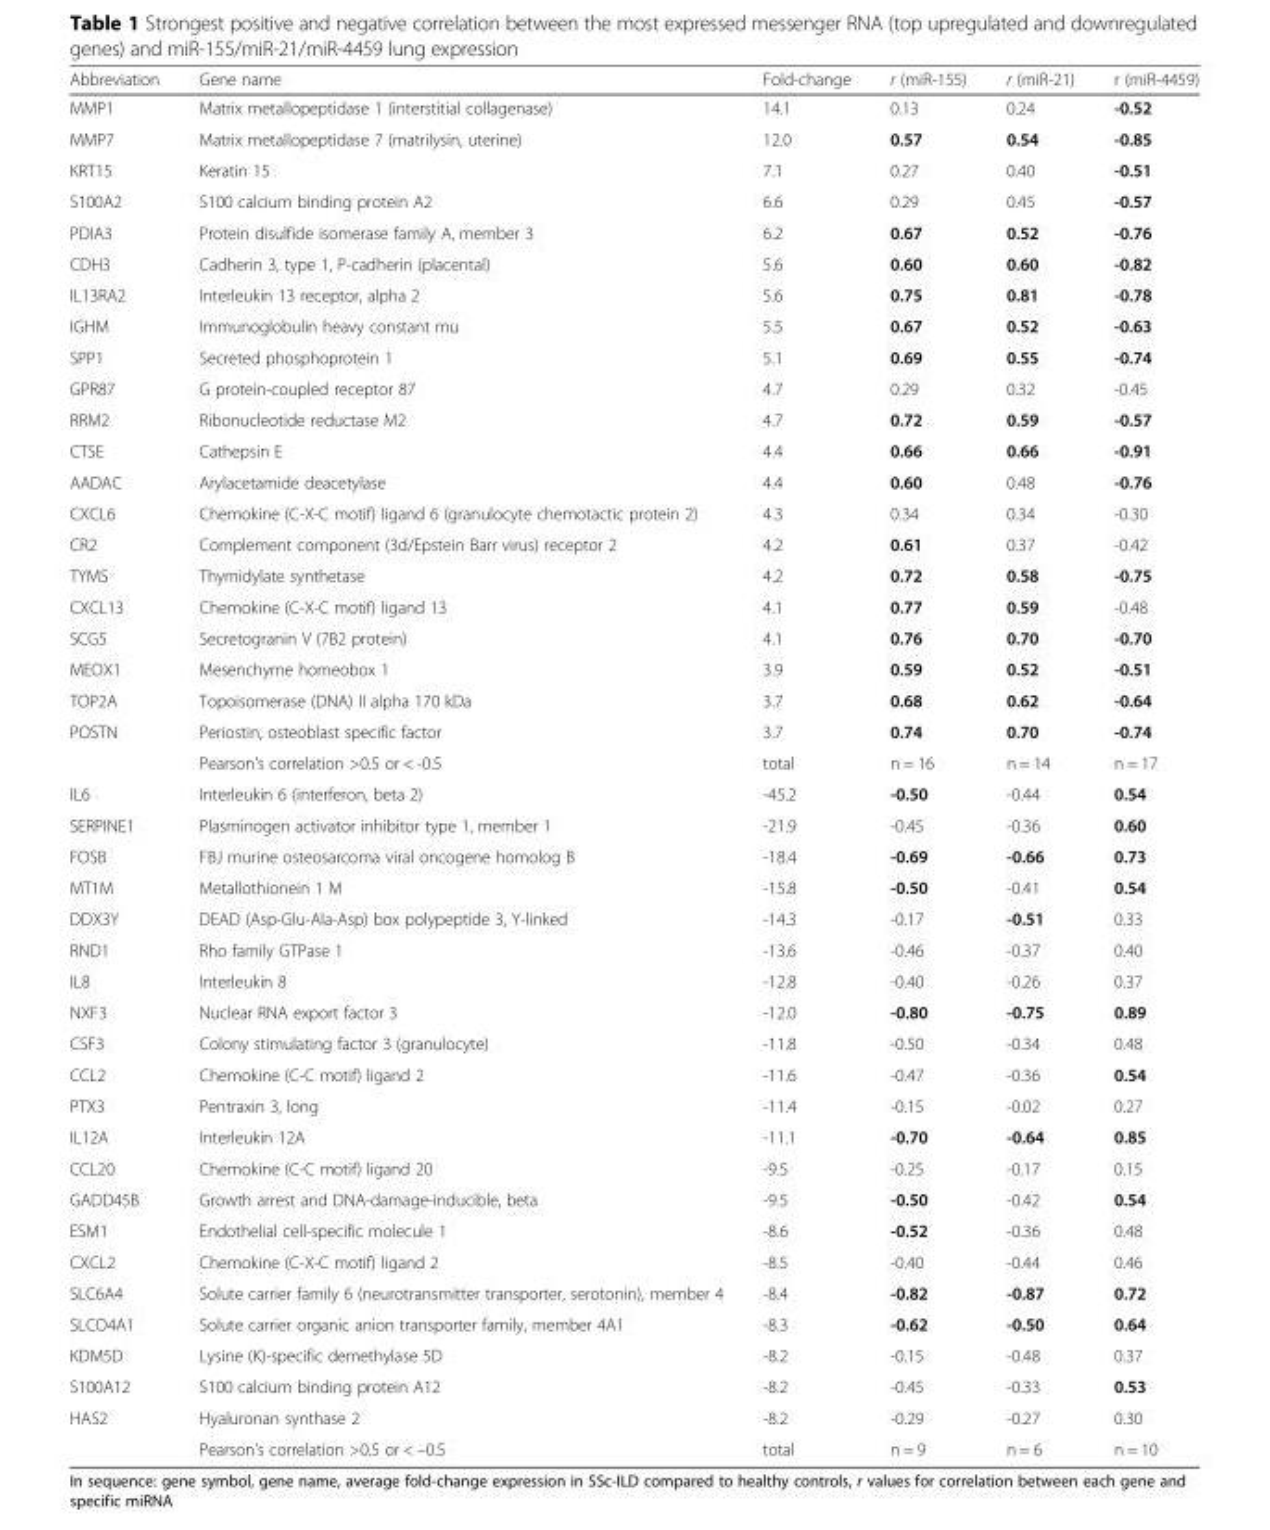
<table><thead><tr><td>Abbreviation</td><td>Gene name</td><td>Fold-change</td><td>r (miR-155)</td><td>r (miR-21)</td><td>r (miR-4459)</td></tr></thead><tbody><tr><td>MMP1</td><td>Matrix metallopeptidase 1 (interstitial collagenase)</td><td>14.1</td><td>0.13</td><td>0.24</td><td>-0.52</td></tr><tr><td>MMP7</td><td>Matrix metallopeptidase 7 (matrilysin, uterine)</td><td>12.0</td><td>0.57</td><td>0.54</td><td>-0.85</td></tr><tr><td>KRT15</td><td>Keratin 15</td><td>7.1</td><td>0.27</td><td>0.40</td><td>-0.51</td></tr><tr><td>S100A2</td><td>S100 calcium binding protein A2</td><td>6.6</td><td>0.29</td><td>0.45</td><td>-0.57</td></tr><tr><td>PDIA3</td><td>Protein disulfide isomerase family A, member 3</td><td>6.2</td><td>0.67</td><td>0.52</td><td>-0.76</td></tr><tr><td>CDH3</td><td>Cadherin 3, type 1, P-cadherin (placental)</td><td>5.6</td><td>0.60</td><td>0.60</td><td>-0.82</td></tr><tr><td>IL13RA2</td><td>Interleukin 13 receptor, alpha 2</td><td>5.6</td><td>0.75</td><td>0.81</td><td>-0.78</td></tr><tr><td>IGHM</td><td>Immunoglobulin heavy constant mu</td><td>5.5</td><td>0.67</td><td>0.52</td><td>-0.63</td></tr><tr><td>SPP1</td><td>Secreted phosphoprotein 1</td><td>5.1</td><td>0.69</td><td>0.55</td><td>-0.74</td></tr><tr><td>GPR87</td><td>G protein-coupled receptor 87</td><td>4.7</td><td>0.29</td><td>0.32</td><td>-0.45</td></tr><tr><td>RRM2</td><td>Ribonucleotide reductase M2</td><td>4.7</td><td>0.72</td><td>0.59</td><td>-0.57</td></tr><tr><td>CTSE</td><td>Cathepsin E</td><td>4.4</td><td>0.66</td><td>0.66</td><td>-0.91</td></tr><tr><td>AADAC</td><td>Arylacetamide deacetylase</td><td>4.4</td><td>0.60</td><td>0.48</td><td>-0.76</td></tr><tr><td>CXCL6</td><td>Chemokine (C-X-C motif) ligand 6 (granulocyte chemotactic protein 2)</td><td>4.3</td><td>0.34</td><td>0.34</td><td>-0.30</td></tr><tr><td>CR2</td><td>Complement component (3d/Epstein Barr virus) receptor 2</td><td>4.2</td><td>0.61</td><td>0.37</td><td>-0.42</td></tr><tr><td>TYMS</td><td>Thymidylate synthetase</td><td>4.2</td><td>0.72</td><td>0.58</td><td>-0.75</td></tr><tr><td>CXCL13</td><td>Chemokine (C-X-C motif) ligand 13</td><td>4.1</td><td>0.77</td><td>0.59</td><td>-0.48</td></tr><tr><td>SCG5</td><td>Secretogranin V (7B2 protein)</td><td>4.1</td><td>0.76</td><td>0.70</td><td>-0.70</td></tr><tr><td>MEOX1</td><td>Mesenchyme homeobox 1</td><td>3.9</td><td>0.59</td><td>0.52</td><td>-0.51</td></tr><tr><td>TOP2A</td><td>Topoisomerase (DNA) II alpha 170 kDa</td><td>3.7</td><td>0.68</td><td>0.62</td><td>-0.64</td></tr><tr><td rowspan="2">POSTN</td><td>Periostin, osteoblast specific factor</td><td>3.7</td><td>0.74</td><td>0.70</td><td>-0.74</td></tr><tr><td>Pearson’s correlation &gt;0.5 or &lt; -0.5</td><td>total</td><td>n = 16</td><td>n = 14</td><td>n = 17</td></tr><tr><td>IL6</td><td>Interleukin 6 (interferon, beta 2)</td><td>-45.2</td><td>-0.50</td><td>-0.44</td><td>0.54</td></tr><tr><td>SERPINE1</td><td>Plasminogen activator inhibitor type 1, member 1</td><td>-21.9</td><td>-0.45</td><td>-0.36</td><td>0.60</td></tr><tr><td>FOSB</td><td>FBJ murine osteosarcoma viral oncogene homolog B</td><td>-18.4</td><td>-0.69</td><td>-0.66</td><td>0.73</td></tr><tr><td>MT1M</td><td>Metallothionein 1 M</td><td>-15.8</td><td>-0.50</td><td>-0.41</td><td>0.54</td></tr><tr><td>DDX3Y</td><td>DEAD (Asp-Glu-Ala-Asp) box polypeptide 3, Y-linked</td><td>-14.3</td><td>-0.17</td><td>-0.51</td><td>0.33</td></tr><tr><td>RND1</td><td>Rho family GTPase 1</td><td>-13.6</td><td>-0.46</td><td>-0.37</td><td>0.40</td></tr><tr><td>IL8</td><td>Interleukin 8</td><td>-12.8</td><td>-0.40</td><td>-0.26</td><td>0.37</td></tr><tr><td>NXF3</td><td>Nuclear RNA export factor 3</td><td>-12.0</td><td>-0.80</td><td>-0.75</td><td>0.89</td></tr><tr><td>CSF3</td><td>Colony stimulating factor 3 (granulocyte)</td><td>-11.8</td><td>-0.50</td><td>-0.34</td><td>0.48</td></tr><tr><td>CCL2</td><td>Chemokine (C-C motif) ligand 2</td><td>-11.6</td><td>-0.47</td><td>-0.36</td><td>0.54</td></tr><tr><td>PTX3</td><td>Pentraxin 3, long</td><td>-11.4</td><td>-0.15</td><td>-0.02</td><td>0.27</td></tr><tr><td>IL12A</td><td>Interleukin 12A</td><td>-11.1</td><td>-0.70</td><td>-0.64</td><td>0.85</td></tr><tr><td>CCL20</td><td>Chemokine (C-C motif) ligand 20</td><td>-9.5</td><td>-0.25</td><td>-0.17</td><td>0.15</td></tr><tr><td>GADD45B</td><td>Growth arrest and DNA-damage-inducible, beta</td><td>-9.5</td><td>-0.50</td><td>-0.42</td><td>0.54</td></tr><tr><td>ESM1</td><td>Endothelial cell-specific molecule 1</td><td>-8.6</td><td>-0.52</td><td>-0.36</td><td>0.48</td></tr><tr><td>CXCL2</td><td>Chemokine (C-X-C motif) ligand 2</td><td>-8.5</td><td>-0.40</td><td>-0.44</td><td>0.46</td></tr><tr><td>SLC6A4</td><td>Solute carrier family 6 (neurotransmitter transporter, serotonin), member 4</td><td>-8.4</td><td>-0.82</td><td>-0.87</td><td>0.72</td></tr><tr><td>SLCO4A1</td><td>Solute carrier organic anion transporter family, member 4A1</td><td>-8.3</td><td>-0.62</td><td>-0.50</td><td>0.64</td></tr><tr><td>KDM5D</td><td>Lysine (K)-specific demethylase 5D</td><td>-8.2</td><td>-0.15</td><td>-0.48</td><td>0.37</td></tr><tr><td>S100A12</td><td>S100 calcium binding protein A12</td><td>-8.2</td><td>-0.45</td><td>-0.33</td><td>0.53</td></tr><tr><td rowspan="2">HAS2</td><td>Hyaluronan synthase 2</td><td>-8.2</td><td>-0.29</td><td>-0.27</td><td>0.30</td></tr><tr><td>Pearson’s correlation &gt;0.5 or &lt; –0.5</td><td>total</td><td>n = 9</td><td>n = 6</td><td>n = 10</td></tr></tbody></table>